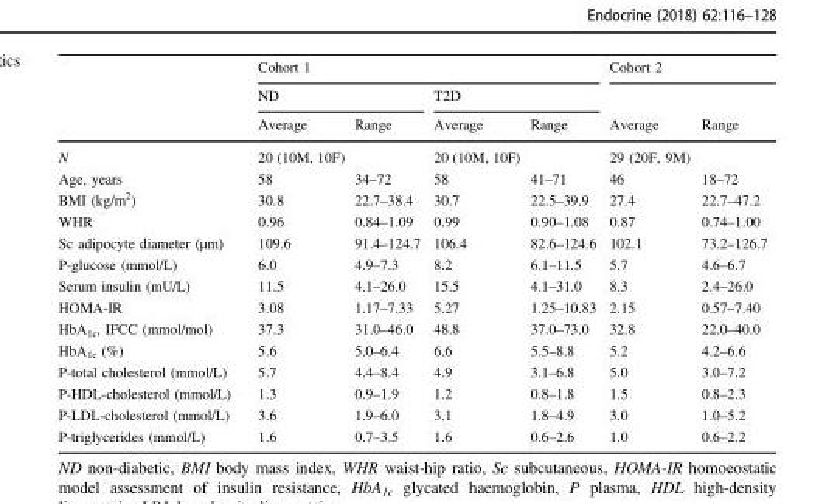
<table><thead><tr><td rowspan="3"></td><td colspan="4">Cohort 1</td><td colspan="2">Cohort 2</td></tr><tr><td colspan="2">ND</td><td colspan="2">T2D</td><td rowspan="2">Average</td><td rowspan="2">Range</td></tr><tr><td>Average</td><td>Range</td><td>Average</td><td>Range</td></tr></thead><tbody><tr><td>N</td><td>20 (10M, 10F)</td><td></td><td>20 (10M, 10F)</td><td></td><td>29 (20F, 9M)</td><td></td></tr><tr><td>Age, years</td><td>58</td><td>34–72</td><td>58</td><td>41–71</td><td>46</td><td>18–72</td></tr><tr><td>BMI (kg/m<sup>2</sup>)</td><td>30.8</td><td>22.7–38.4</td><td>30.7</td><td>22.5–39.9</td><td>27.4</td><td>22.7–47.2</td></tr><tr><td>WHR</td><td>0.96</td><td>0.84–1.09</td><td>0.99</td><td>0.90–1.08</td><td>0.87</td><td>0.74–1.00</td></tr><tr><td>Sc adipocyte diameter (µm)</td><td>109.6</td><td>91.4–124.7</td><td>106.4</td><td>82.6–124.6</td><td>102.1</td><td>73.2–126.7</td></tr><tr><td>P-glucose (mmol/L)</td><td>6.0</td><td>4.9–7.3</td><td>8.2</td><td>6.1–11.5</td><td>5.7</td><td>4.6–6.7</td></tr><tr><td>Serum insulin (mU/L)</td><td>11.5</td><td>4.1–26.0</td><td>15.5</td><td>4.1–31.0</td><td>8.3</td><td>2.4–26.0</td></tr><tr><td>HOMA-IR</td><td>3.08</td><td>1.17–7.33</td><td>5.27</td><td>1.25–10.83</td><td>2.15</td><td>0.57–7.40</td></tr><tr><td>HbA<sub>1c</sub>, IFCC (mmol/mol)</td><td>37.3</td><td>31.0–46.0</td><td>48.8</td><td>37.0–73.0</td><td>32.8</td><td>22.0–40.0</td></tr><tr><td>HbA<sub>1c</sub> (%)</td><td>5.6</td><td>5.0–6.4</td><td>6.6</td><td>5.5–8.8</td><td>5.2</td><td>4.2–6.6</td></tr><tr><td>P-total cholesterol (mmol/L)</td><td>5.7</td><td>4.4–8.4</td><td>4.9</td><td>3.1–6.8</td><td>5.0</td><td>3.0–7.2</td></tr><tr><td>P-HDL-cholesterol (mmol/L)</td><td>1.3</td><td>0.9–1.9</td><td>1.2</td><td>0.8–1.8</td><td>1.5</td><td>0.8–2.3</td></tr><tr><td>P-LDL-cholesterol (mmol/L)</td><td>3.6</td><td>1.9–6.0</td><td>3.1</td><td>1.8–4.9</td><td>3.0</td><td>1.0–5.2</td></tr><tr><td>P-triglycerides (mmol/L)</td><td>1.6</td><td>0.7–3.5</td><td>1.6</td><td>0.6–2.6</td><td>1.0</td><td>0.6–2.2</td></tr></tbody></table>